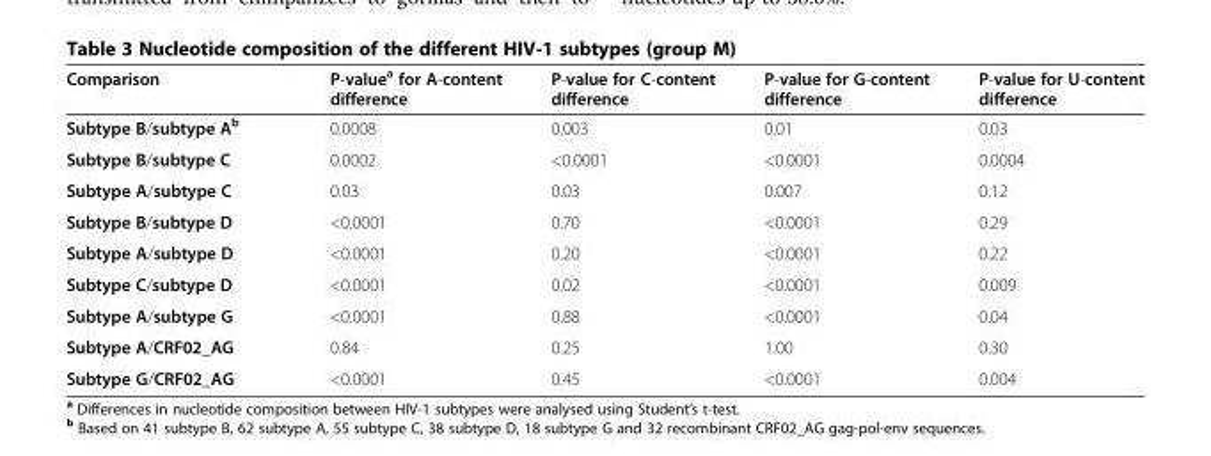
<table><thead><tr><td>Comparison</td><td>P-value<sup>a</sup> for A-content difference</td><td>P-value for C-content difference</td><td>P-value for G-content difference</td><td>P-value for U-content difference</td></tr></thead><tbody><tr><td>Subtype B/subtype A<sup>b</sup></td><td>0.0008</td><td>0.003</td><td>0.01</td><td>0.03</td></tr><tr><td>Subtype B/subtype C</td><td>0.0002</td><td>&lt;0.0001</td><td>&lt;0.0001</td><td>0.0004</td></tr><tr><td>Subtype A/subtype C</td><td>0.03</td><td>0.03</td><td>0.007</td><td>0.12</td></tr><tr><td>Subtype B/subtype D</td><td>&lt;0.0001</td><td>0.70</td><td>&lt;0.0001</td><td>0.29</td></tr><tr><td>Subtype A/subtype D</td><td>&lt;0.0001</td><td>0.20</td><td>&lt;0.0001</td><td>0.22</td></tr><tr><td>Subtype C/subtype D</td><td>&lt;0.0001</td><td>0.02</td><td>&lt;0.0001</td><td>0.009</td></tr><tr><td>Subtype A/subtype G</td><td>&lt;0.0001</td><td>0.88</td><td>&lt;0.0001</td><td>0.04</td></tr><tr><td>Subtype A/CRF02_AG</td><td>0.84</td><td>0.25</td><td>1.00</td><td>0.30</td></tr><tr><td>Subtype G/CRF02_AG</td><td>&lt;0.0001</td><td>0.45</td><td>&lt;0.0001</td><td>0.004</td></tr></tbody></table>